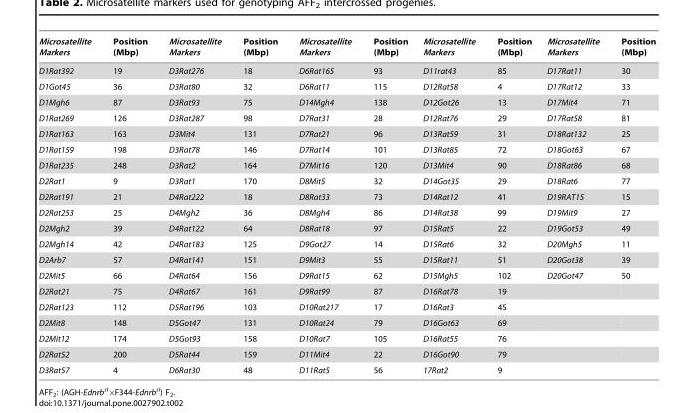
<table><thead><tr><td>Microsatellite Markers</td><td>Position (Mbp)</td><td>Microsatellite Markers</td><td>Position (Mbp)</td><td>Microsatellite Markers</td><td>Position (Mbp)</td><td>Microsatellite Markers</td><td>Position (Mbp)</td><td>Microsatellite Markers</td><td>Position (Mbp)</td></tr></thead><tbody><tr><td>D1Rat392</td><td>19</td><td>D3Rat276</td><td>18</td><td>D6Rat165</td><td>93</td><td>D11rat43</td><td>85</td><td>D17Rat11</td><td>30</td></tr><tr><td>D1Got45</td><td>36</td><td>D3Rat80</td><td>32</td><td>D6Rat11</td><td>115</td><td>D12Rat58</td><td>4</td><td>D17Rat12</td><td>33</td></tr><tr><td>D1Mgh6</td><td>87</td><td>D3Rat93</td><td>75</td><td>D14Mgh4</td><td>138</td><td>D12Got26</td><td>13</td><td>D17Mit4</td><td>71</td></tr><tr><td>D1Rat269</td><td>126</td><td>D3Rat287</td><td>98</td><td>D7Rat31</td><td>28</td><td>D12Rat76</td><td>29</td><td>D17Rat58</td><td>81</td></tr><tr><td>D1Rat163</td><td>163</td><td>D3Mit4</td><td>131</td><td>D7Rat21</td><td>96</td><td>D13Rat59</td><td>31</td><td>D18Rat132</td><td>25</td></tr><tr><td>D1Rat159</td><td>198</td><td>D3Rat78</td><td>146</td><td>D7Rat14</td><td>101</td><td>D13Rat85</td><td>72</td><td>D18Got63</td><td>67</td></tr><tr><td>D1Rat235</td><td>248</td><td>D3Rat2</td><td>164</td><td>D7Mit16</td><td>120</td><td>D13Mit4</td><td>90</td><td>D18Rat86</td><td>68</td></tr><tr><td>D2Rat1</td><td>9</td><td>D3Rat1</td><td>170</td><td>D8Mit5</td><td>32</td><td>D14Got35</td><td>29</td><td>D18Rat6</td><td>77</td></tr><tr><td>D2Rat191</td><td>21</td><td>D4Rat222</td><td>18</td><td>D8Rat33</td><td>73</td><td>D14Rat12</td><td>41</td><td>D19RAT15</td><td>15</td></tr><tr><td>D2Rat253</td><td>25</td><td>D4Mgh2</td><td>36</td><td>D8Mgh4</td><td>86</td><td>D14Rat38</td><td>99</td><td>D19Mit9</td><td>27</td></tr><tr><td>D2Mgh2</td><td>39</td><td>D4Rat122</td><td>64</td><td>D8Rat18</td><td>97</td><td>D15Rat5</td><td>22</td><td>D19Got53</td><td>49</td></tr><tr><td>D2Mgh14</td><td>42</td><td>D4Rat183</td><td>125</td><td>D9Got27</td><td>14</td><td>D15Rat6</td><td>32</td><td>D20Mgh5</td><td>11</td></tr><tr><td>D2Arb7</td><td>57</td><td>D4Rat141</td><td>151</td><td>D9Mit3</td><td>55</td><td>D15Rat11</td><td>51</td><td>D20Got38</td><td>39</td></tr><tr><td>D2Mit5</td><td>66</td><td>D4Rat64</td><td>156</td><td>D9Rat15</td><td>62</td><td>D15Mgh5</td><td>102</td><td>D20Got47</td><td>50</td></tr><tr><td>D2Rat21</td><td>75</td><td>D4Rat67</td><td>161</td><td>D9Rat99</td><td>87</td><td>D16Rat78</td><td>19</td><td></td><td></td></tr><tr><td>D2Rat123</td><td>112</td><td>D5Rat196</td><td>103</td><td>D10Rat217</td><td>17</td><td>D16Rat3</td><td>45</td><td></td><td></td></tr><tr><td>D2Mit8</td><td>148</td><td>D5Got47</td><td>131</td><td>D10Rat24</td><td>79</td><td>D16Got63</td><td>69</td><td></td><td></td></tr><tr><td>D2Mit12</td><td>174</td><td>D5Got93</td><td>158</td><td>D10Rat7</td><td>105</td><td>D16Rat55</td><td>76</td><td></td><td></td></tr><tr><td>D2Rat52</td><td>200</td><td>D5Rat44</td><td>159</td><td>D11Mit4</td><td>22</td><td>D16Got90</td><td>79</td><td></td><td></td></tr><tr><td>D3Rat57</td><td>4</td><td>D6Rat30</td><td>48</td><td>D11Rat5</td><td>56</td><td>17Rat2</td><td>9</td><td></td><td></td></tr></tbody></table>